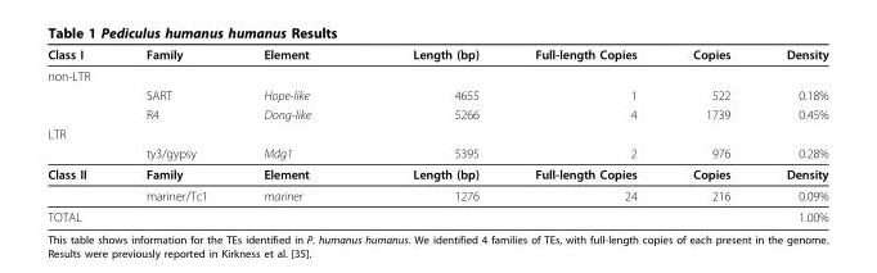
<table><thead><tr><td>Class I</td><td>Family</td><td>Element</td><td>Length (bp)</td><td>Full-length Copies</td><td>Copies</td><td>Density</td></tr></thead><tbody><tr><td colspan="7">non-LTR</td></tr><tr><td></td><td>SART</td><td>Hope-like</td><td>4655</td><td>1</td><td>522</td><td>0.18%</td></tr><tr><td></td><td>R4</td><td>Dong-like</td><td>5266</td><td>4</td><td>1739</td><td>0.45%</td></tr><tr><td colspan="7">LTR</td></tr><tr><td></td><td>ty3/gypsy</td><td>Mdg1</td><td>5395</td><td>2</td><td>976</td><td>0.28%</td></tr><tr><td rowspan="2">Class II</td><td>Family</td><td>Element</td><td>Length (bp)</td><td>Full-length Copies</td><td>Copies</td><td>Density</td></tr><tr><td>mariner/Tc1</td><td>mariner</td><td>1276</td><td>24</td><td>216</td><td>0.09%</td></tr><tr><td>TOTAL</td><td></td><td></td><td></td><td></td><td></td><td>1.00%</td></tr></tbody></table>